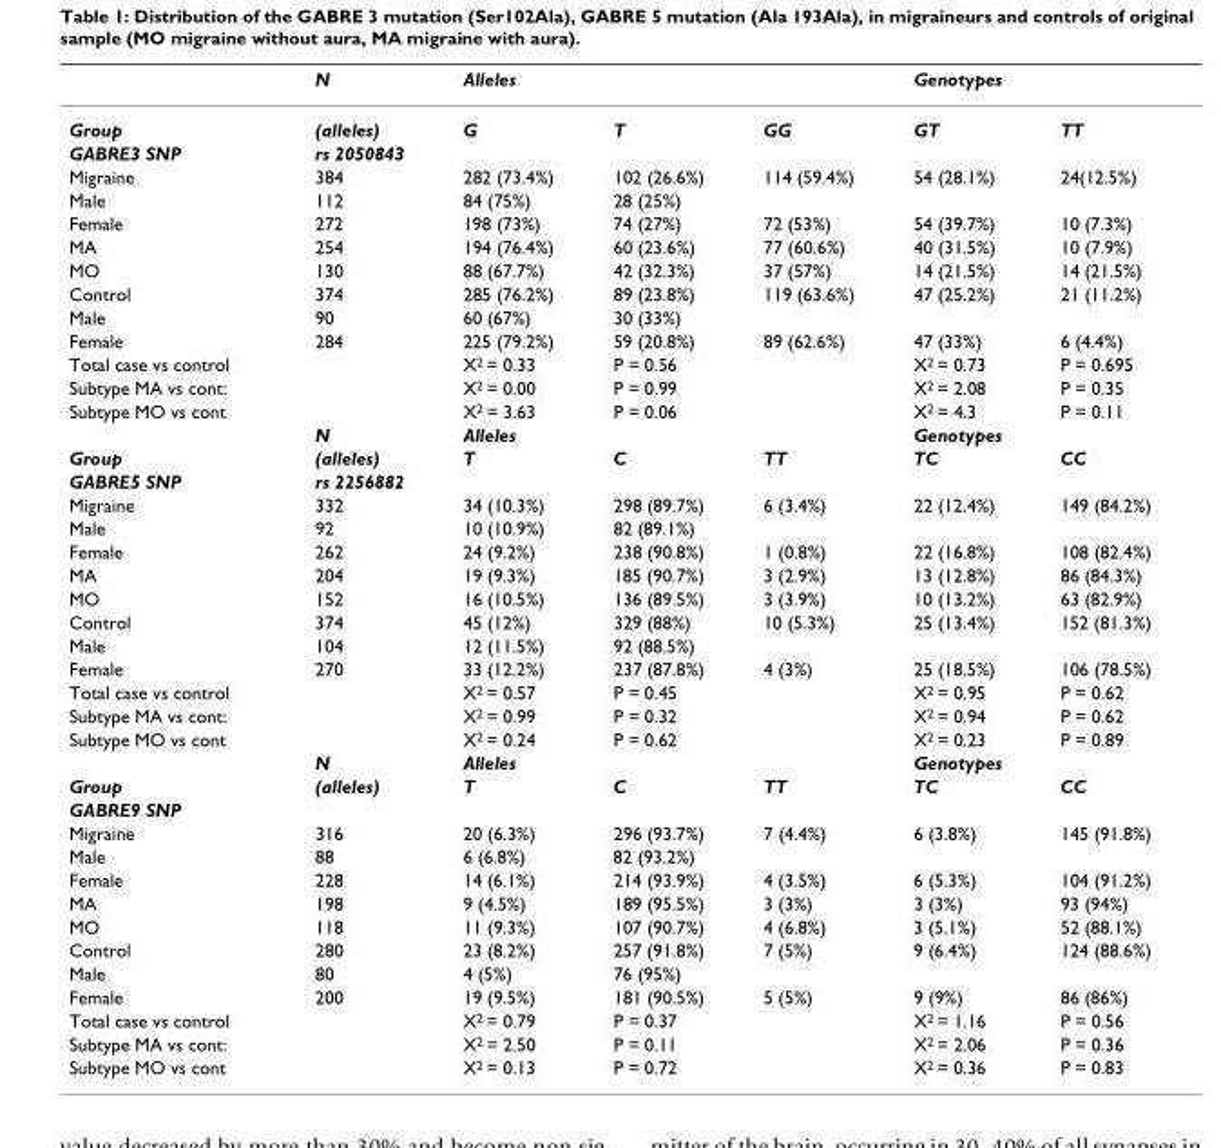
<table><thead><tr><td></td><td>N</td><td>Alleles</td><td></td><td></td><td>Genotypes</td><td></td></tr></thead><tbody><tr><td>Group</td><td>(alleles)</td><td>G</td><td>T</td><td>GG</td><td>GT</td><td>TT</td></tr><tr><td>GABRE3 SNP</td><td>rs 2050843</td><td></td><td></td><td></td><td></td><td></td></tr><tr><td>Migraine</td><td>384</td><td>282 (73.4%)</td><td>102 (26.6%)</td><td>114 (59.4%)</td><td>54 (28.1%)</td><td>24(12.5%)</td></tr><tr><td>Male</td><td>112</td><td>84 (75%)</td><td>28 (25%)</td><td></td><td></td><td></td></tr><tr><td>Female</td><td>272</td><td>198 (73%)</td><td>74 (27%)</td><td>72 (53%)</td><td>54 (39.7%)</td><td>10 (7.3%)</td></tr><tr><td>MA</td><td>254</td><td>194 (76.4%)</td><td>60 (23.6%)</td><td>77 (60.6%)</td><td>40 (31.5%)</td><td>10 (7.9%)</td></tr><tr><td>MO</td><td>130</td><td>88 (67.7%)</td><td>42 (32.3%)</td><td>37 (57%)</td><td>14 (21.5%)</td><td>14 (21.5%)</td></tr><tr><td>Control</td><td>374</td><td>285 (76.2%)</td><td>89 (23.8%)</td><td>119 (63.6%)</td><td>47 (25.2%)</td><td>21 (11.2%)</td></tr><tr><td>Male</td><td>90</td><td>60 (67%)</td><td>30 (33%)</td><td></td><td></td><td></td></tr><tr><td>Female</td><td>284</td><td>225 (79.2%)</td><td>59 (20.8%)</td><td>89 (62.6%)</td><td>47 (33%)</td><td>6 (4.4%)</td></tr><tr><td>Total case vs control</td><td></td><td>X<sup>2</sup> = 0.33</td><td>P = 0.56</td><td></td><td>X<sup>2</sup> = 0.73</td><td>P = 0.695</td></tr><tr><td>Subtype MA vs cont:</td><td></td><td>X<sup>2</sup> = 0.00</td><td>P = 0.99</td><td></td><td>X<sup>2</sup> = 2.08</td><td>P = 0.35</td></tr><tr><td rowspan="2">Subtype MO vs cont</td><td></td><td>X<sup>2</sup> = 3.63</td><td>P = 0.06</td><td></td><td>X<sup>2</sup> = 4.3</td><td>P = 0.11</td></tr><tr><td>N</td><td>Alleles</td><td></td><td></td><td>Genotypes</td><td></td></tr><tr><td>Group</td><td>(alleles)</td><td>T</td><td>C</td><td>TT</td><td>TC</td><td>CC</td></tr><tr><td>GABRE5 SNP</td><td>rs 2256882</td><td></td><td></td><td></td><td></td><td></td></tr><tr><td>Migraine</td><td>332</td><td>34 (10.3%)</td><td>298 (89.7%)</td><td>6 (3.4%)</td><td>22 (12.4%)</td><td>149 (84.2%)</td></tr><tr><td>Male</td><td>92</td><td>10 (10.9%)</td><td>82 (89.1%)</td><td></td><td></td><td></td></tr><tr><td>Female</td><td>262</td><td>24 (9.2%)</td><td>238 (90.8%)</td><td>1 (0.8%)</td><td>22 (16.8%)</td><td>108 (82.4%)</td></tr><tr><td>MA</td><td>204</td><td>19 (9.3%)</td><td>185 (90.7%)</td><td>3 (2.9%)</td><td>13 (12.8%)</td><td>86 (84.3%)</td></tr><tr><td>MO</td><td>152</td><td>16 (10.5%)</td><td>136 (89.5%)</td><td>3 (3.9%)</td><td>10 (13.2%)</td><td>63 (82.9%)</td></tr><tr><td>Control</td><td>374</td><td>45 (12%)</td><td>329 (88%)</td><td>10 (5.3%)</td><td>25 (13.4%)</td><td>152 (81.3%)</td></tr><tr><td>Male</td><td>104</td><td>12 (11.5%)</td><td>92 (88.5%)</td><td></td><td></td><td></td></tr><tr><td>Female</td><td>270</td><td>33 (12.2%)</td><td>237 (87.8%)</td><td>4 (3%)</td><td>25 (18.5%)</td><td>106 (78.5%)</td></tr><tr><td>Total case vs control</td><td></td><td>X<sup>2</sup> = 0.57</td><td>P = 0.45</td><td></td><td>X<sup>2</sup> = 0.95</td><td>P = 0.62</td></tr><tr><td>Subtype MA vs cont:</td><td></td><td>X<sup>2</sup> = 0.99</td><td>P = 0.32</td><td></td><td>X<sup>2</sup> = 0.94</td><td>P = 0.62</td></tr><tr><td rowspan="2">Subtype MO vs cont</td><td></td><td>X<sup>2</sup> = 0.24</td><td>P = 0.62</td><td></td><td>X<sup>2</sup> = 0.23</td><td>P = 0.89</td></tr><tr><td>N</td><td>Alleles</td><td></td><td></td><td>Genotypes</td><td></td></tr><tr><td>Group</td><td>(alleles)</td><td>T</td><td>C</td><td>TT</td><td>TC</td><td>CC</td></tr><tr><td colspan="7">GABRE9 SNP</td></tr><tr><td>Migraine</td><td>316</td><td>20 (6.3%)</td><td>296 (93.7%)</td><td>7 (4.4%)</td><td>6 (3.8%)</td><td>145 (91.8%)</td></tr><tr><td>Male</td><td>88</td><td>6 (6.8%)</td><td>82 (93.2%)</td><td></td><td></td><td></td></tr><tr><td>Female</td><td>228</td><td>14 (6.1%)</td><td>214 (93.9%)</td><td>4 (3.5%)</td><td>6 (5.3%)</td><td>104 (91.2%)</td></tr><tr><td>MA</td><td>198</td><td>9 (4.5%)</td><td>189 (95.5%)</td><td>3 (3%)</td><td>3 (3%)</td><td>93 (94%)</td></tr><tr><td>MO</td><td>118</td><td>11 (9.3%)</td><td>107 (90.7%)</td><td>4 (6.8%)</td><td>3 (5.1%)</td><td>52 (88.1%)</td></tr><tr><td>Control</td><td>280</td><td>23 (8.2%)</td><td>257 (91.8%)</td><td>7 (5%)</td><td>9 (6.4%)</td><td>124 (88.6%)</td></tr><tr><td>Male</td><td>80</td><td>4 (5%)</td><td>76 (95%)</td><td></td><td></td><td></td></tr><tr><td>Female</td><td>200</td><td>19 (9.5%)</td><td>181 (90.5%)</td><td>5 (5%)</td><td>9 (9%)</td><td>86 (86%)</td></tr><tr><td>Total case vs control</td><td></td><td>X<sup>2</sup> = 0.79</td><td>P = 0.37</td><td></td><td>X<sup>2</sup> = 1.16</td><td>P = 0.56</td></tr><tr><td>Subtype MA vs cont:</td><td></td><td>X<sup>2</sup> = 2.50</td><td>P = 0.11</td><td></td><td>X<sup>2</sup> = 2.06</td><td>P = 0.36</td></tr><tr><td>Subtype MO vs cont</td><td></td><td>X<sup>2</sup> = 0.13</td><td>P = 0.72</td><td></td><td>X<sup>2</sup> = 0.36</td><td>P = 0.83</td></tr></tbody></table>